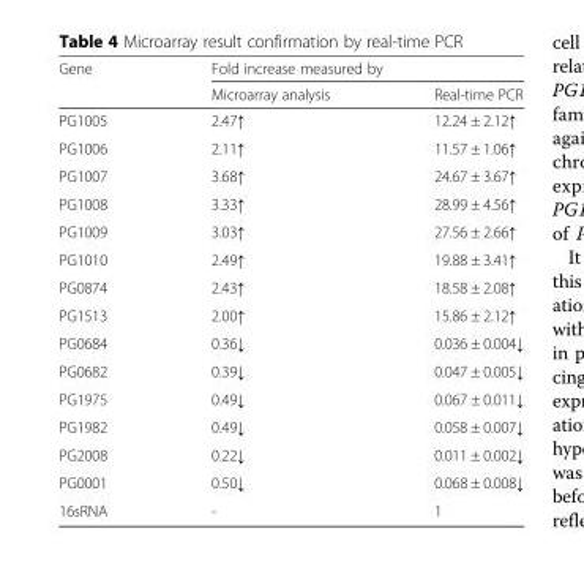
<table><thead><tr><td rowspan="2">Gene</td><td colspan="2">Fold increase measured by</td></tr><tr><td>Microarray analysis</td><td>Real-time PCR</td></tr></thead><tbody><tr><td>PG1005</td><td>2.47↑</td><td>12.24 ± 2.12↑</td></tr><tr><td>PG1006</td><td>2.11↑</td><td>11.57 ± 1.06↑</td></tr><tr><td>PG1007</td><td>3.68↑</td><td>24.67 ± 3.67↑</td></tr><tr><td>PG1008</td><td>3.33↑</td><td>28.99 ± 4.56↑</td></tr><tr><td>PG1009</td><td>3.03↑</td><td>27.56 ± 2.66↑</td></tr><tr><td>PG1010</td><td>2.49↑</td><td>19.88 ± 3.41↑</td></tr><tr><td>PG0874</td><td>2.43↑</td><td>18.58 ± 2.08↑</td></tr><tr><td>PG1513</td><td>2.00↑</td><td>15.86 ± 2.12↑</td></tr><tr><td>PG0684</td><td>0.36↓</td><td>0.036 ± 0.004↓</td></tr><tr><td>PG0682</td><td>0.39↓</td><td>0.047 ± 0.005↓</td></tr><tr><td>PG1975</td><td>0.49↓</td><td>0.067 ± 0.011↓</td></tr><tr><td>PG1982</td><td>0.49↓</td><td>0.058 ± 0.007↓</td></tr><tr><td>PG2008</td><td>0.22↓</td><td>0.011 ± 0.002↓</td></tr><tr><td>PG0001</td><td>0.50↓</td><td>0.068 ± 0.008↓</td></tr><tr><td>16sRNA</td><td>-</td><td>1</td></tr></tbody></table>